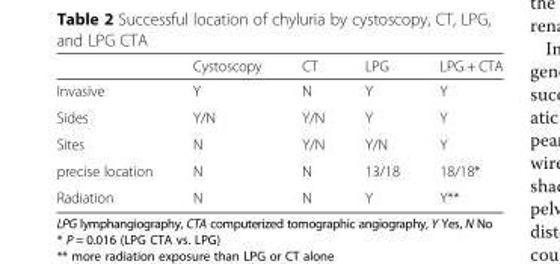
<table><thead><tr><td></td><td>Cystoscopy</td><td>CT</td><td>LPG</td><td>LPG + CTA</td></tr></thead><tbody><tr><td>Invasive</td><td>Y</td><td>N</td><td>Y</td><td>Y</td></tr><tr><td>Sides</td><td>Y/N</td><td>Y/N</td><td>Y</td><td>Y</td></tr><tr><td>Sites</td><td>N</td><td>Y/N</td><td>Y/N</td><td>Y</td></tr><tr><td>precise location</td><td>N</td><td>N</td><td>13/18</td><td>18/18*</td></tr><tr><td>Radiation</td><td>N</td><td>N</td><td>Y</td><td>Y**</td></tr></tbody></table>